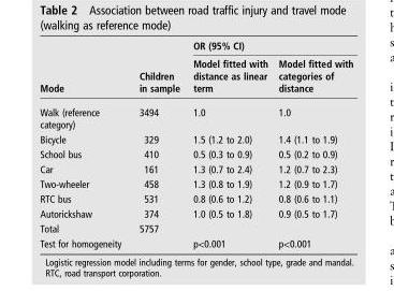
<table><thead><tr><td rowspan="2">Mode</td><td rowspan="2">Children in sample</td><td colspan="2">OR (95% CI)</td></tr><tr><td>Model fitted with distance as linear term</td><td>Model fitted with categories of distance</td></tr></thead><tbody><tr><td>Walk (reference category)</td><td>3494</td><td>1.0</td><td>1.0</td></tr><tr><td>Bicycle</td><td>329</td><td>1.5 (1.2 to 2.0)</td><td>1.4 (1.1 to 1.9)</td></tr><tr><td>School bus</td><td>410</td><td>0.5 (0.3 to 0.9)</td><td>0.5 (0.2 to 0.9)</td></tr><tr><td>Car</td><td>161</td><td>1.3 (0.7 to 2.4)</td><td>1.2 (0.7 to 2.3)</td></tr><tr><td>Two-wheeler</td><td>458</td><td>1.3 (0.8 to 1.9)</td><td>1.2 (0.9 to 1.7)</td></tr><tr><td>RTC bus</td><td>531</td><td>0.8 (0.6 to 1.2)</td><td>0.8 (0.6 to 1.1)</td></tr><tr><td>Autorickshaw</td><td>374</td><td>1.0 (0.5 to 1.8)</td><td>0.9 (0.5 to 1.7)</td></tr><tr><td>Total</td><td>5757</td><td></td><td></td></tr><tr><td>Test for homogeneity</td><td></td><td>p&lt;0.001</td><td>p&lt;0.001</td></tr></tbody></table>